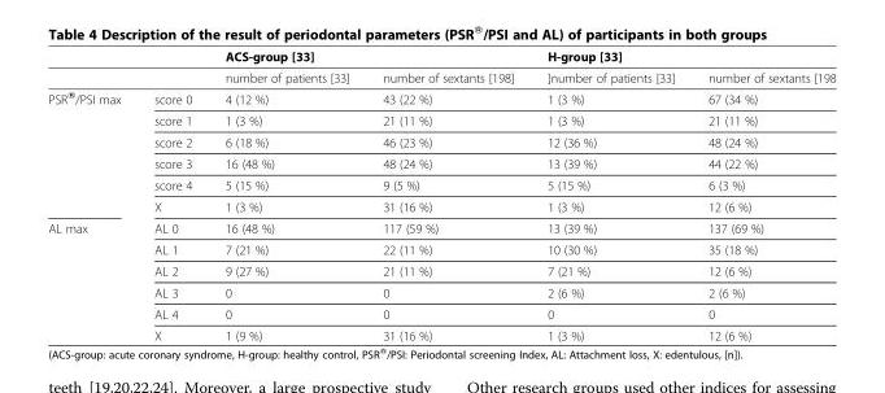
<table><thead><tr><td></td><td></td><td colspan="2">ACS-group [33]</td><td colspan="2">H-group [33]</td></tr><tr><td colspan="2"></td><td>number of patients [33]</td><td>number of sextants [198]</td><td>]number of patients [33]</td><td>number of sextants [198</td></tr></thead><tbody><tr><td rowspan="6">PSR®/PSI max</td><td>score 0</td><td>4 (12 %)</td><td>43 (22 %)</td><td>1 (3 %)</td><td>67 (34 %)</td></tr><tr><td>score 1</td><td>1 (3 %)</td><td>21 (11 %)</td><td>1 (3 %)</td><td>21 (11 %)</td></tr><tr><td>score 2</td><td>6 (18 %)</td><td>46 (23 %)</td><td>12 (36 %)</td><td>48 (24 %)</td></tr><tr><td>score 3</td><td>16 (48 %)</td><td>48 (24 %)</td><td>13 (39 %)</td><td>44 (22 %)</td></tr><tr><td>score 4</td><td>5 (15 %)</td><td>9 (5 %)</td><td>5 (15 %)</td><td>6 (3 %)</td></tr><tr><td>X</td><td>1 (3 %)</td><td>31 (16 %)</td><td>1 (3 %)</td><td>12 (6 %)</td></tr><tr><td rowspan="6">AL max</td><td>AL 0</td><td>16 (48 %)</td><td>117 (59 %)</td><td>13 (39 %)</td><td>137 (69 %)</td></tr><tr><td>AL 1</td><td>7 (21 %)</td><td>22 (11 %)</td><td>10 (30 %)</td><td>35 (18 %)</td></tr><tr><td>AL 2</td><td>9 (27 %)</td><td>21 (11 %)</td><td>7 (21 %)</td><td>12 (6 %)</td></tr><tr><td>AL 3</td><td>0</td><td>0</td><td>2 (6 %)</td><td>2 (6 %)</td></tr><tr><td>AL 4</td><td>0</td><td>0</td><td>0</td><td>0</td></tr><tr><td>X</td><td>1 (9 %)</td><td>31 (16 %)</td><td>1 (3 %)</td><td>12 (6 %)</td></tr></tbody></table>